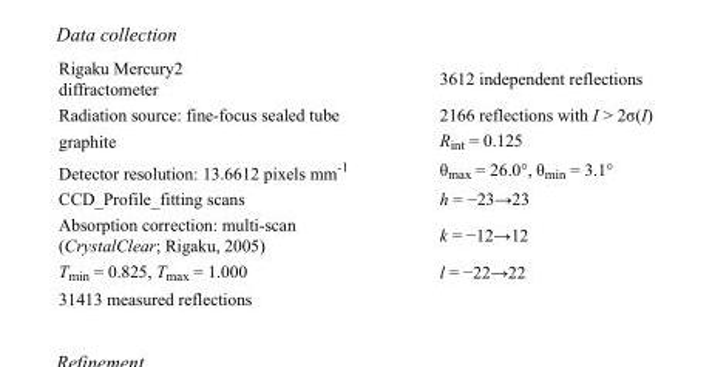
<table><tbody><tr><td>Rigaku Mercury2 diffractometer</td><td>3612 independent reflections</td></tr><tr><td>Radiation source: fine-focus sealed tube</td><td>2166 reflections with I &gt; 2σ(I)</td></tr><tr><td>graphite</td><td>R<sub>int</sub> = 0.125</td></tr><tr><td>Detector resolution: 13.6612 pixels mm<sup>-1</sup></td><td>θ<sub>max</sub> = 26.0°, θ<sub>min</sub> = 3.1°</td></tr><tr><td>CCD_Profile_fitting scans</td><td>h = −23→23</td></tr><tr><td>Absorption correction: multi-scan (CrystalClear; Rigaku, 2005)</td><td>k = −12→12</td></tr><tr><td>T<sub>min</sub> = 0.825, T<sub>max</sub> = 1.000</td><td>l = −22→22</td></tr><tr><td>31413 measured reflections</td><td></td></tr></tbody></table>